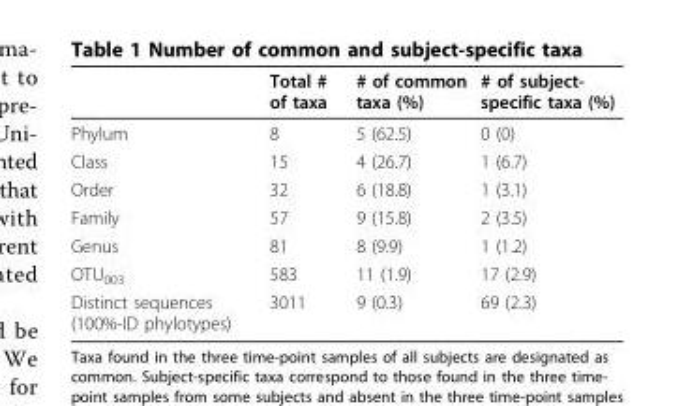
<table><thead><tr><td></td><td>Total # of taxa</td><td># of common taxa (%)</td><td># of subject- specific taxa (%)</td></tr></thead><tbody><tr><td>Phylum</td><td>8</td><td>5 (62.5)</td><td>0 (0)</td></tr><tr><td>Class</td><td>15</td><td>4 (26.7)</td><td>1 (6.7)</td></tr><tr><td>Order</td><td>32</td><td>6 (18.8)</td><td>1 (3.1)</td></tr><tr><td>Family</td><td>57</td><td>9 (15.8)</td><td>2 (3.5)</td></tr><tr><td>Genus</td><td>81</td><td>8 (9.9)</td><td>1 (1.2)</td></tr><tr><td>OTU<sub>003</sub></td><td>583</td><td>11 (1.9)</td><td>17 (2.9)</td></tr><tr><td>Distinct sequences (100%-ID phylotypes)</td><td>3011</td><td>9 (0.3)</td><td>69 (2.3)</td></tr></tbody></table>